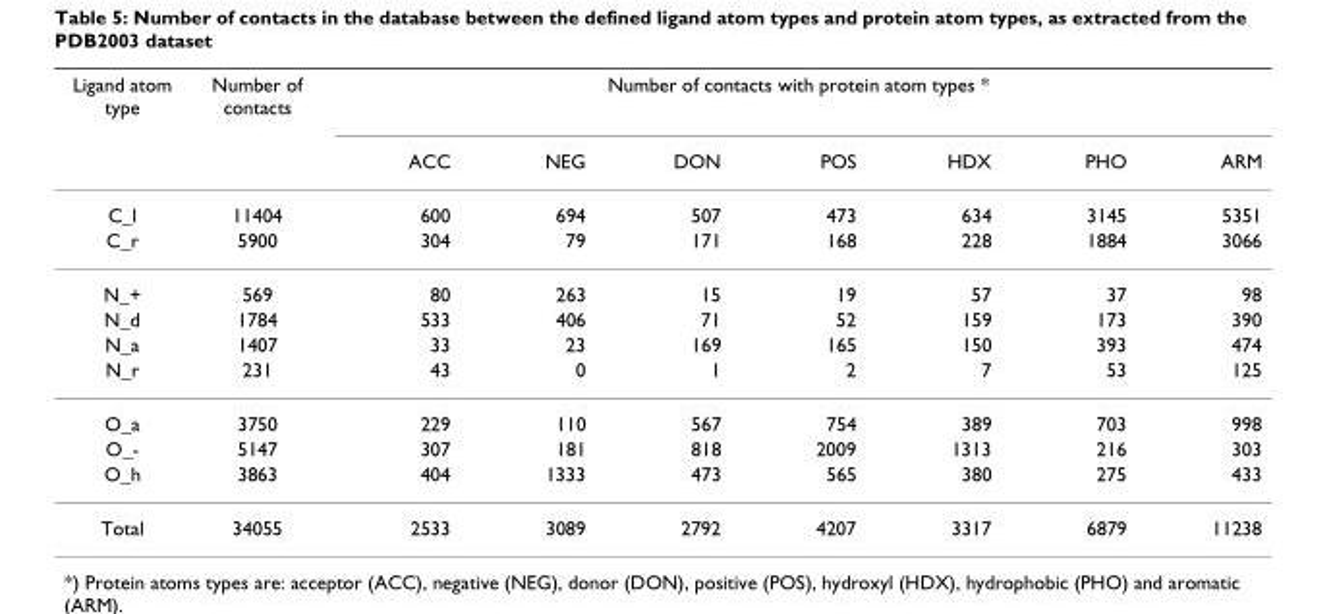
<table><thead><tr><td rowspan="2">Ligand atom type</td><td rowspan="2">Number of contacts</td><td colspan="7">Number of contacts with protein atom types *</td></tr><tr><td>ACC</td><td>NEG</td><td>DON</td><td>POS</td><td>HDX</td><td>PHO</td><td>ARM</td></tr></thead><tbody><tr><td>C_l</td><td>11404</td><td>600</td><td>694</td><td>507</td><td>473</td><td>634</td><td>3145</td><td>5351</td></tr><tr><td>C_r</td><td>5900</td><td>304</td><td>79</td><td>171</td><td>168</td><td>228</td><td>1884</td><td>3066</td></tr><tr><td>N_+</td><td>569</td><td>80</td><td>263</td><td>15</td><td>19</td><td>57</td><td>37</td><td>98</td></tr><tr><td>N_d</td><td>1784</td><td>533</td><td>406</td><td>71</td><td>52</td><td>159</td><td>173</td><td>390</td></tr><tr><td>N_a</td><td>1407</td><td>33</td><td>23</td><td>169</td><td>165</td><td>150</td><td>393</td><td>474</td></tr><tr><td>N_r</td><td>231</td><td>43</td><td>0</td><td>1</td><td>2</td><td>7</td><td>53</td><td>125</td></tr><tr><td>O_a</td><td>3750</td><td>229</td><td>110</td><td>567</td><td>754</td><td>389</td><td>703</td><td>998</td></tr><tr><td>O_-</td><td>5147</td><td>307</td><td>181</td><td>818</td><td>2009</td><td>1313</td><td>216</td><td>303</td></tr><tr><td>O_h</td><td>3863</td><td>404</td><td>1333</td><td>473</td><td>565</td><td>380</td><td>275</td><td>433</td></tr><tr><td>Total</td><td>34055</td><td>2533</td><td>3089</td><td>2792</td><td>4207</td><td>3317</td><td>6879</td><td>11238</td></tr></tbody></table>